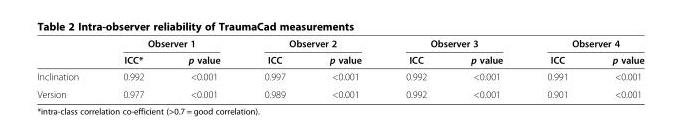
<table><thead><tr><td rowspan="2"></td><td colspan="2">Observer 1</td><td colspan="2">Observer 2</td><td colspan="2">Observer 3</td><td colspan="2">Observer 4</td></tr><tr><td>ICC*</td><td>p value</td><td>ICC</td><td>p value</td><td>ICC</td><td>p value</td><td>ICC</td><td>p value</td></tr></thead><tbody><tr><td>Inclination</td><td>0.992</td><td>&lt;0.001</td><td>0.997</td><td>&lt;0.001</td><td>0.992</td><td>&lt;0.001</td><td>0.991</td><td>&lt;0.001</td></tr><tr><td>Version</td><td>0.977</td><td>&lt;0.001</td><td>0.989</td><td>&lt;0.001</td><td>0.992</td><td>&lt;0.001</td><td>0.901</td><td>&lt;0.001</td></tr></tbody></table>